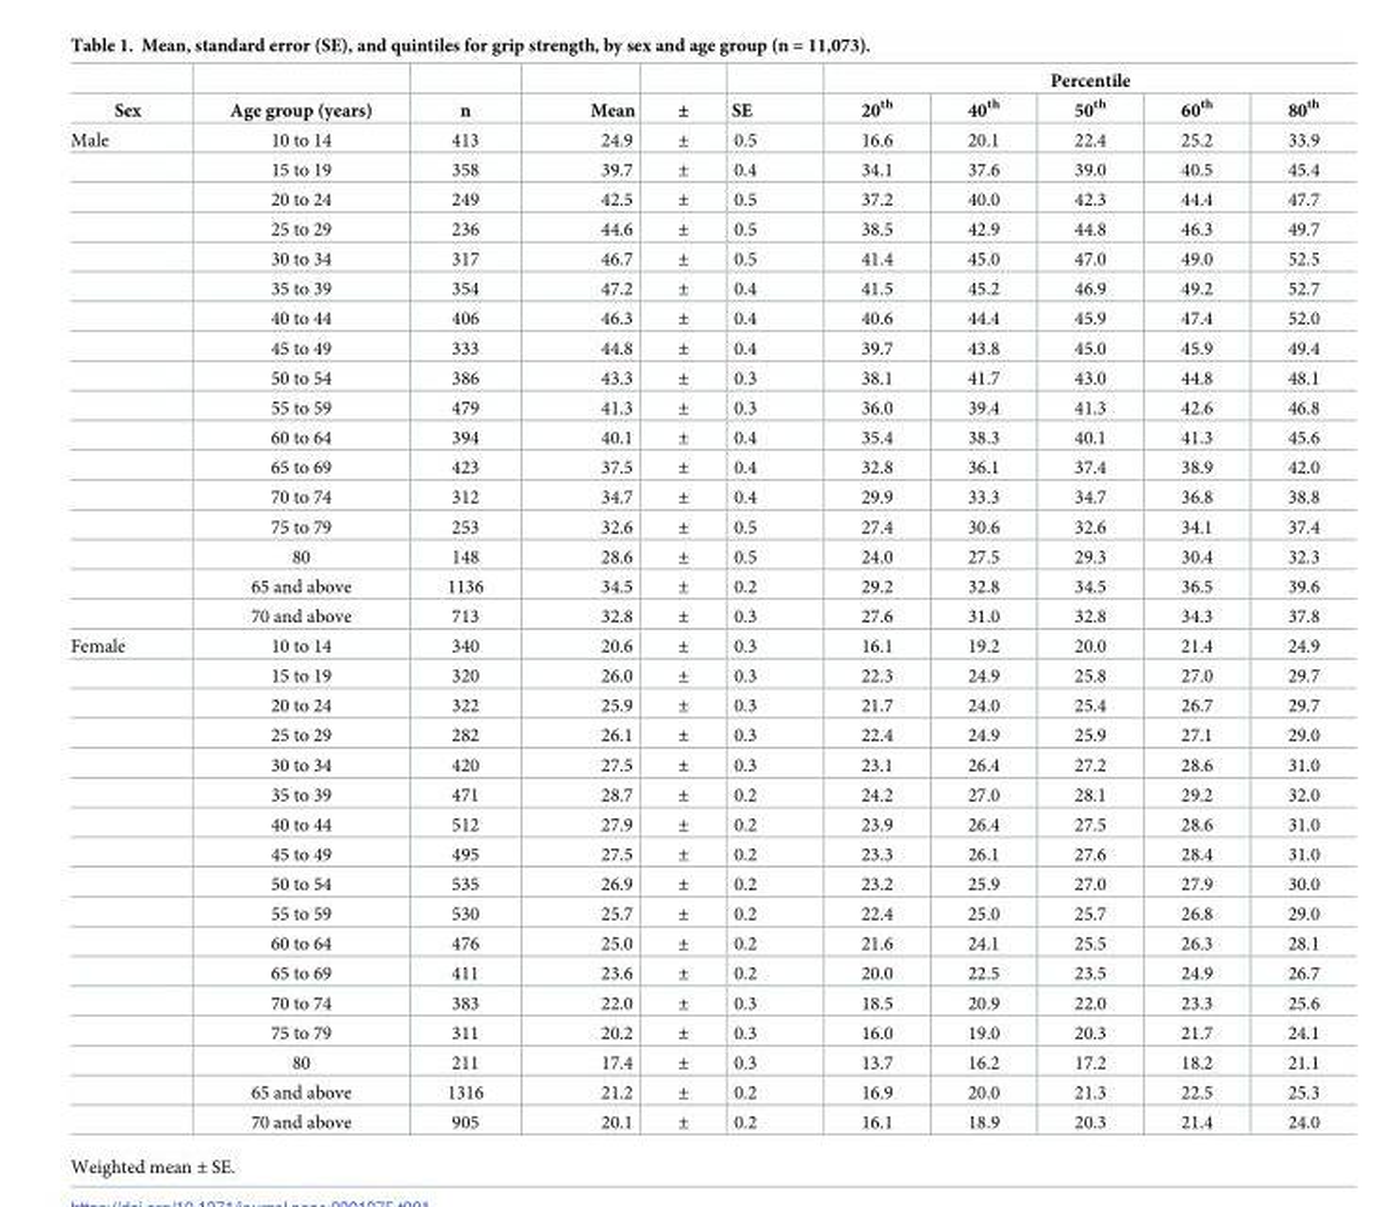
<table><thead><tr><td rowspan="2">Sex</td><td rowspan="2">Age group (years)</td><td rowspan="2">n</td><td rowspan="2">Mean</td><td rowspan="2">±</td><td rowspan="2">SE</td><td colspan="5">Percentile</td></tr><tr><td>20<sup>th</sup></td><td>40<sup>th</sup></td><td>50<sup>th</sup></td><td>60<sup>th</sup></td><td>80<sup>th</sup></td></tr></thead><tbody><tr><td rowspan="17">Male</td><td>10 to 14</td><td>413</td><td>24.9</td><td>±</td><td>0.5</td><td>16.6</td><td>20.1</td><td>22.4</td><td>25.2</td><td>33.9</td></tr><tr><td>15 to 19</td><td>358</td><td>39.7</td><td>±</td><td>0.4</td><td>34.1</td><td>37.6</td><td>39.0</td><td>40.5</td><td>45.4</td></tr><tr><td>20 to 24</td><td>249</td><td>42.5</td><td>±</td><td>0.5</td><td>37.2</td><td>40.0</td><td>42.3</td><td>44.4</td><td>47.7</td></tr><tr><td>25 to 29</td><td>236</td><td>44.6</td><td>±</td><td>0.5</td><td>38.5</td><td>42.9</td><td>44.8</td><td>46.3</td><td>49.7</td></tr><tr><td>30 to 34</td><td>317</td><td>46.7</td><td>±</td><td>0.5</td><td>41.4</td><td>45.0</td><td>47.0</td><td>49.0</td><td>52.5</td></tr><tr><td>35 to 39</td><td>354</td><td>47.2</td><td>±</td><td>0.4</td><td>41.5</td><td>45.2</td><td>46.9</td><td>49.2</td><td>52.7</td></tr><tr><td>40 to 44</td><td>406</td><td>46.3</td><td>±</td><td>0.4</td><td>40.6</td><td>44.4</td><td>45.9</td><td>47.4</td><td>52.0</td></tr><tr><td>45 to 49</td><td>333</td><td>44.8</td><td>±</td><td>0.4</td><td>39.7</td><td>43.8</td><td>45.0</td><td>45.9</td><td>49.4</td></tr><tr><td>50 to 54</td><td>386</td><td>43.3</td><td>±</td><td>0.3</td><td>38.1</td><td>41.7</td><td>43.0</td><td>44.8</td><td>48.1</td></tr><tr><td>55 to 59</td><td>479</td><td>41.3</td><td>±</td><td>0.3</td><td>36.0</td><td>39.4</td><td>41.3</td><td>42.6</td><td>46.8</td></tr><tr><td>60 to 64</td><td>394</td><td>40.1</td><td>±</td><td>0.4</td><td>35.4</td><td>38.3</td><td>40.1</td><td>41.3</td><td>45.6</td></tr><tr><td>65 to 69</td><td>423</td><td>37.5</td><td>±</td><td>0.4</td><td>32.8</td><td>36.1</td><td>37.4</td><td>38.9</td><td>42.0</td></tr><tr><td>70 to 74</td><td>312</td><td>34.7</td><td>±</td><td>0.4</td><td>29.9</td><td>33.3</td><td>34.7</td><td>36.8</td><td>38.8</td></tr><tr><td>75 to 79</td><td>253</td><td>32.6</td><td>±</td><td>0.5</td><td>27.4</td><td>30.6</td><td>32.6</td><td>34.1</td><td>37.4</td></tr><tr><td>80</td><td>148</td><td>28.6</td><td>±</td><td>0.5</td><td>24.0</td><td>27.5</td><td>29.3</td><td>30.4</td><td>32.3</td></tr><tr><td>65 and above</td><td>1136</td><td>34.5</td><td>±</td><td>0.2</td><td>29.2</td><td>32.8</td><td>34.5</td><td>36.5</td><td>39.6</td></tr><tr><td>70 and above</td><td>713</td><td>32.8</td><td>±</td><td>0.3</td><td>27.6</td><td>31.0</td><td>32.8</td><td>34.3</td><td>37.8</td></tr><tr><td rowspan="17">Female</td><td>10 to 14</td><td>340</td><td>20.6</td><td>±</td><td>0.3</td><td>16.1</td><td>19.2</td><td>20.0</td><td>21.4</td><td>24.9</td></tr><tr><td>15 to 19</td><td>320</td><td>26.0</td><td>±</td><td>0.3</td><td>22.3</td><td>24.9</td><td>25.8</td><td>27.0</td><td>29.7</td></tr><tr><td>20 to 24</td><td>322</td><td>25.9</td><td>±</td><td>0.3</td><td>21.7</td><td>24.0</td><td>25.4</td><td>26.7</td><td>29.7</td></tr><tr><td>25 to 29</td><td>282</td><td>26.1</td><td>±</td><td>0.3</td><td>22.4</td><td>24.9</td><td>25.9</td><td>27.1</td><td>29.0</td></tr><tr><td>30 to 34</td><td>420</td><td>27.5</td><td>±</td><td>0.3</td><td>23.1</td><td>26.4</td><td>27.2</td><td>28.6</td><td>31.0</td></tr><tr><td>35 to 39</td><td>471</td><td>28.7</td><td>±</td><td>0.2</td><td>24.2</td><td>27.0</td><td>28.1</td><td>29.2</td><td>32.0</td></tr><tr><td>40 to 44</td><td>512</td><td>27.9</td><td>±</td><td>0.2</td><td>23.9</td><td>26.4</td><td>27.5</td><td>28.6</td><td>31.0</td></tr><tr><td>45 to 49</td><td>495</td><td>27.5</td><td>±</td><td>0.2</td><td>23.3</td><td>26.1</td><td>27.6</td><td>28.4</td><td>31.0</td></tr><tr><td>50 to 54</td><td>535</td><td>26.9</td><td>±</td><td>0.2</td><td>23.2</td><td>25.9</td><td>27.0</td><td>27.9</td><td>30.0</td></tr><tr><td>55 to 59</td><td>530</td><td>25.7</td><td>±</td><td>0.2</td><td>22.4</td><td>25.0</td><td>25.7</td><td>26.8</td><td>29.0</td></tr><tr><td>60 to 64</td><td>476</td><td>25.0</td><td>±</td><td>0.2</td><td>21.6</td><td>24.1</td><td>25.5</td><td>26.3</td><td>28.1</td></tr><tr><td>65 to 69</td><td>411</td><td>23.6</td><td>±</td><td>0.2</td><td>20.0</td><td>22.5</td><td>23.5</td><td>24.9</td><td>26.7</td></tr><tr><td>70 to 74</td><td>383</td><td>22.0</td><td>±</td><td>0.3</td><td>18.5</td><td>20.9</td><td>22.0</td><td>23.3</td><td>25.6</td></tr><tr><td>75 to 79</td><td>311</td><td>20.2</td><td>±</td><td>0.3</td><td>16.0</td><td>19.0</td><td>20.3</td><td>21.7</td><td>24.1</td></tr><tr><td>80</td><td>211</td><td>17.4</td><td>±</td><td>0.3</td><td>13.7</td><td>16.2</td><td>17.2</td><td>18.2</td><td>21.1</td></tr><tr><td>65 and above</td><td>1316</td><td>21.2</td><td>±</td><td>0.2</td><td>16.9</td><td>20.0</td><td>21.3</td><td>22.5</td><td>25.3</td></tr><tr><td>70 and above</td><td>905</td><td>20.1</td><td>±</td><td>0.2</td><td>16.1</td><td>18.9</td><td>20.3</td><td>21.4</td><td>24.0</td></tr></tbody></table>